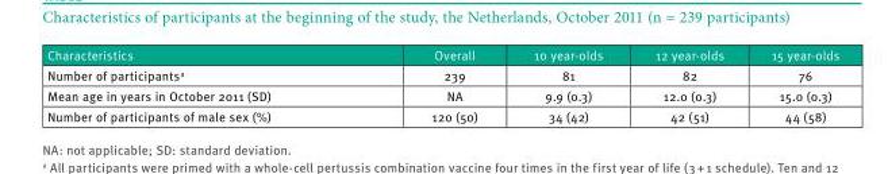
<table><thead><tr><td>Characteristics</td><td>Overall</td><td>10 year-olds</td><td>12 year-olds</td><td>15 year-olds</td></tr></thead><tbody><tr><td>Number of participants<sup>a</sup></td><td>239</td><td>81</td><td>82</td><td>76</td></tr><tr><td>Mean age in years in October 2011 (SD)</td><td>NA</td><td>9.9 (0.3)</td><td>12.0 (0.3)</td><td>15.0 (0.3)</td></tr><tr><td>Number of participants of male sex (%)</td><td>120 (50)</td><td>34 (42)</td><td>42 (51)</td><td>44 (58)</td></tr></tbody></table>